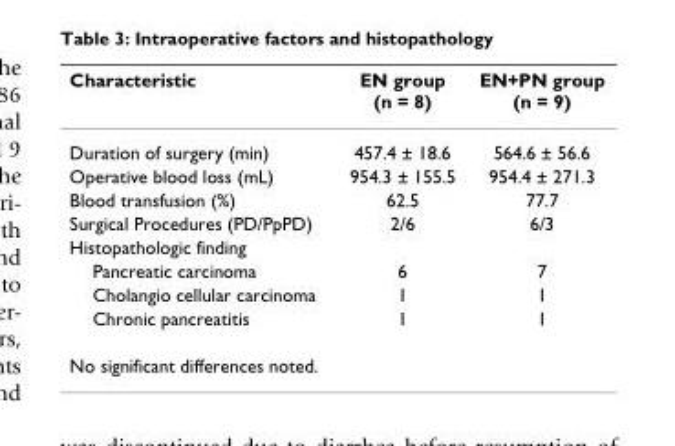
<table><thead><tr><td>Characteristic</td><td>EN group (n = 8)</td><td>EN+PN group (n = 9)</td></tr></thead><tbody><tr><td>Duration of surgery (min)</td><td>457.4 ± 18.6</td><td>564.6 ± 56.6</td></tr><tr><td>Operative blood loss (mL)</td><td>954.3 ± 155.5</td><td>954.4 ± 271.3</td></tr><tr><td>Blood transfusion (%)</td><td>62.5</td><td>77.7</td></tr><tr><td>Surgical Procedures (PD/PpPD)</td><td>2/6</td><td>6/3</td></tr><tr><td colspan="3">Histopathologic finding</td></tr><tr><td>Pancreatic carcinoma</td><td>6</td><td>7</td></tr><tr><td>Cholangio cellular carcinoma</td><td>1</td><td>1</td></tr><tr><td>Chronic pancreatitis</td><td>1</td><td>1</td></tr><tr><td>No significant differences noted.</td><td></td><td></td></tr></tbody></table>